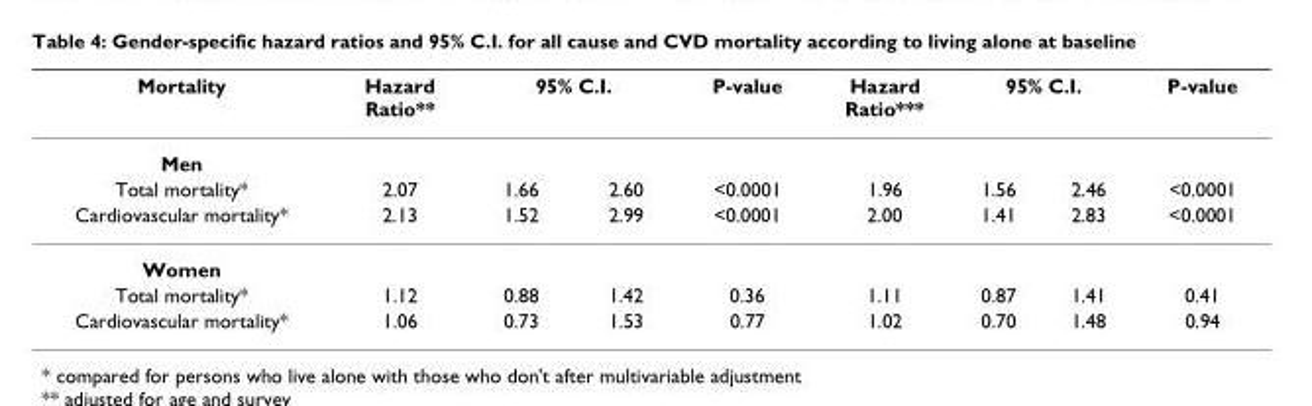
<table><thead><tr><td rowspan="2">Mortality Men</td><td rowspan="2">Hazard Ratio**</td><td colspan="2">95% C.I.</td><td rowspan="2">P-value</td><td rowspan="2">Hazard Ratio***</td><td colspan="2">95% C.I.</td><td rowspan="2">P-value</td></tr><tr><td></td><td></td><td></td><td></td></tr></thead><tbody><tr><td>Total mortality*</td><td>2.07</td><td>1.66</td><td>2.60</td><td>&lt;0.0001</td><td>1.96</td><td>1.56</td><td>2.46</td><td>&lt;0.0001</td></tr><tr><td>Cardiovascular mortality*</td><td>2.13</td><td>1.52</td><td>2.99</td><td>&lt;0.0001</td><td>2.00</td><td>1.41</td><td>2.83</td><td>&lt;0.0001</td></tr><tr><td colspan="9">Women</td></tr><tr><td>Total mortality*</td><td>1.12</td><td>0.88</td><td>1.42</td><td>0.36</td><td>1.11</td><td>0.87</td><td>1.41</td><td>0.41</td></tr><tr><td>Cardiovascular mortality*</td><td>1.06</td><td>0.73</td><td>1.53</td><td>0.77</td><td>1.02</td><td>0.70</td><td>1.48</td><td>0.94</td></tr></tbody></table>